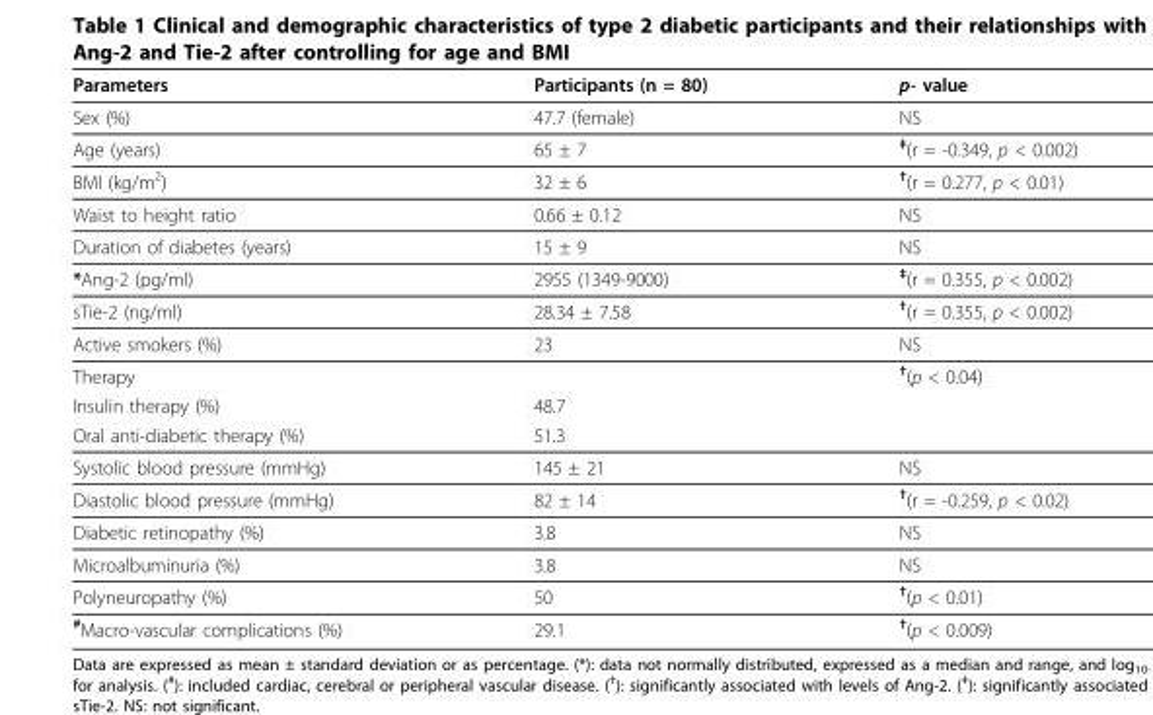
<table><thead><tr><td>Parameters</td><td>Participants (n = 80)</td><td>p- value</td></tr></thead><tbody><tr><td>Sex (%)</td><td>47.7 (female)</td><td>NS</td></tr><tr><td>Age (years)</td><td>65 ± 7</td><td><sup>‡</sup>(r = -0.349, p &lt; 0.002)</td></tr><tr><td>BMI (kg/m<sup>2</sup>)</td><td>32 ± 6</td><td><sup>†</sup>(r = 0.277, p &lt; 0.01)</td></tr><tr><td>Waist to height ratio</td><td>0.66 ± 0.12</td><td>NS</td></tr><tr><td>Duration of diabetes (years)</td><td>15 ± 9</td><td>NS</td></tr><tr><td>*Ang-2 (pg/ml)</td><td>2955 (1349-9000)</td><td><sup>‡</sup>(r = 0.355, p &lt; 0.002)</td></tr><tr><td>sTie-2 (ng/ml)</td><td>28.34 ± 7.58</td><td><sup>†</sup>(r = 0.355, p &lt; 0.002)</td></tr><tr><td>Active smokers (%)</td><td>23</td><td>NS</td></tr><tr><td>Therapy</td><td></td><td><sup>†</sup>(p &lt; 0.04)</td></tr><tr><td>Insulin therapy (%)</td><td>48.7</td><td></td></tr><tr><td>Oral anti-diabetic therapy (%)</td><td>51.3</td><td></td></tr><tr><td>Systolic blood pressure (mmHg)</td><td>145 ± 21</td><td>NS</td></tr><tr><td>Diastolic blood pressure (mmHg)</td><td>82 ± 14</td><td><sup>†</sup>(r = -0.259, p &lt; 0.02)</td></tr><tr><td>Diabetic retinopathy (%)</td><td>3.8</td><td>NS</td></tr><tr><td>Microalbuminuria (%)</td><td>3.8</td><td>NS</td></tr><tr><td>Polyneuropathy (%)</td><td>50</td><td><sup>†</sup>(p &lt; 0.01)</td></tr><tr><td><sup>#</sup>Macro-vascular complications (%)</td><td>29.1</td><td><sup>†</sup>(p &lt; 0.009)</td></tr></tbody></table>